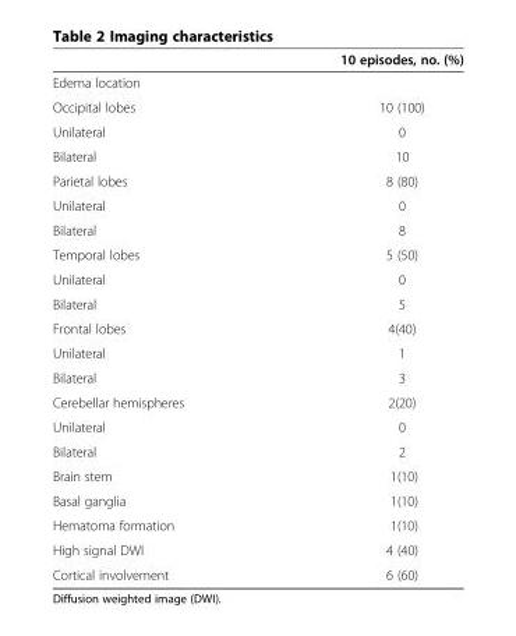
<table><thead><tr><td></td><td>10 episodes, no. (%)</td></tr></thead><tbody><tr><td colspan="2">Edema location</td></tr><tr><td>Occipital lobes</td><td>10 (100)</td></tr><tr><td>Unilateral</td><td>0</td></tr><tr><td>Bilateral</td><td>10</td></tr><tr><td>Parietal lobes</td><td>8 (80)</td></tr><tr><td>Unilateral</td><td>0</td></tr><tr><td>Bilateral</td><td>8</td></tr><tr><td>Temporal lobes</td><td>5 (50)</td></tr><tr><td>Unilateral</td><td>0</td></tr><tr><td>Bilateral</td><td>5</td></tr><tr><td>Frontal lobes</td><td>4(40)</td></tr><tr><td>Unilateral</td><td>1</td></tr><tr><td>Bilateral</td><td>3</td></tr><tr><td>Cerebellar hemispheres</td><td>2(20)</td></tr><tr><td>Unilateral</td><td>0</td></tr><tr><td>Bilateral</td><td>2</td></tr><tr><td>Brain stem</td><td>1(10)</td></tr><tr><td>Basal ganglia</td><td>1(10)</td></tr><tr><td>Hematoma formation</td><td>1(10)</td></tr><tr><td>High signal DWI</td><td>4 (40)</td></tr><tr><td>Cortical involvement</td><td>6 (60)</td></tr></tbody></table>